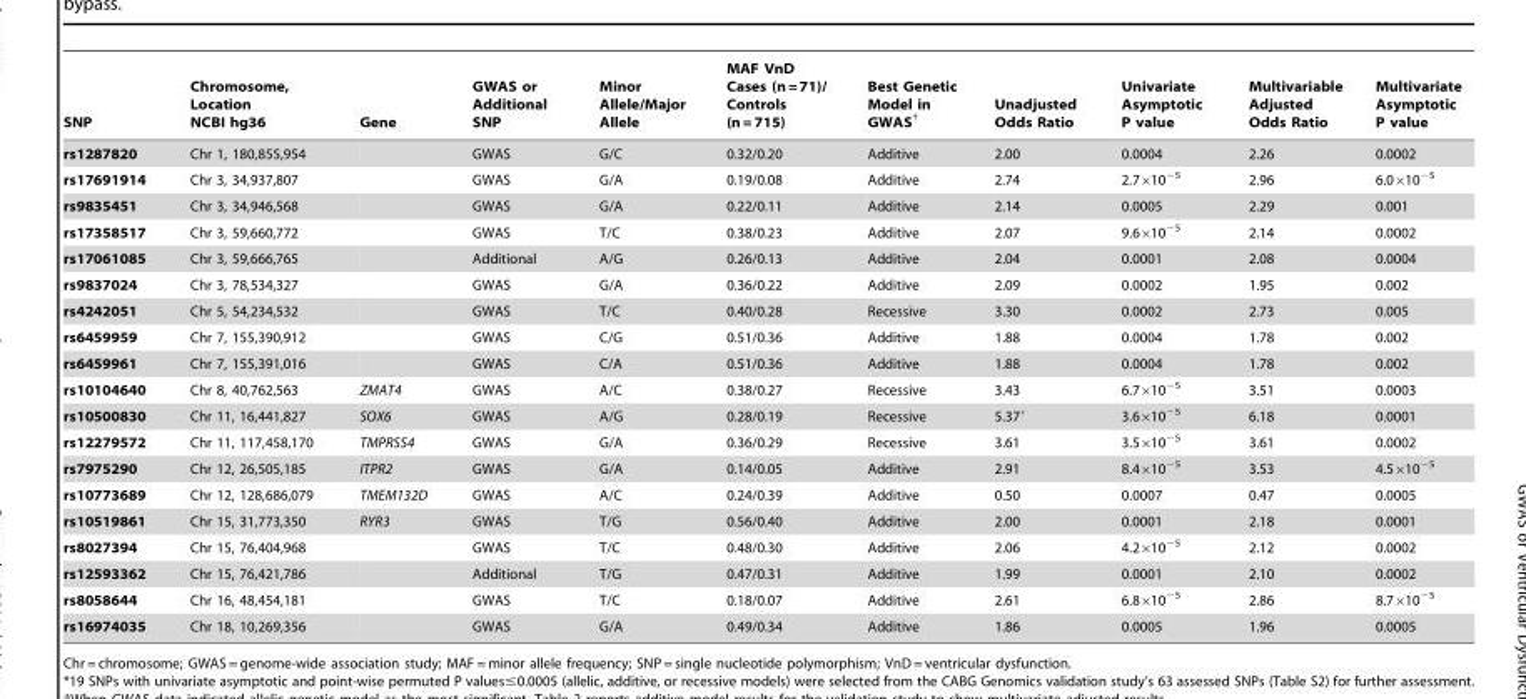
<table><thead><tr><td>SNP</td><td>Chromosome, Location NCBI hg36</td><td>Gene</td><td>GWAS or Additional SNP</td><td>Minor Allele/Major Allele</td><td>MAF VnD Cases (n = 71)/ Controls (n = 715)</td><td>Best Genetic Model in GWAS†</td><td>Unadjusted Odds Ratio</td><td>Univariate Asymptotic P value</td><td>Multivariable Adjusted Odds Ratio</td><td>Multivariate Asymptotic P value</td></tr></thead><tbody><tr><td>rs1287820</td><td>Chr 1, 180,855,954</td><td></td><td>GWAS</td><td>G/C</td><td>0.32/0.20</td><td>Additive</td><td>2.00</td><td>0.0004</td><td>2.26</td><td>0.0002</td></tr><tr><td>rs17691914</td><td>Chr 3, 34,937,807</td><td></td><td>GWAS</td><td>G/A</td><td>0.19/0.08</td><td>Additive</td><td>2.74</td><td>2.7×10<sup>−5</sup></td><td>2.96</td><td>6.0×10<sup>−5</sup></td></tr><tr><td>rs9835451</td><td>Chr 3, 34,946,568</td><td></td><td>GWAS</td><td>G/A</td><td>0.22/0.11</td><td>Additive</td><td>2.14</td><td>0.0005</td><td>2.29</td><td>0.001</td></tr><tr><td>rs17358517</td><td>Chr 3, 59,660,772</td><td></td><td>GWAS</td><td>T/C</td><td>0.38/0.23</td><td>Additive</td><td>2.07</td><td>9.6×10<sup>−5</sup></td><td>2.14</td><td>0.0002</td></tr><tr><td>rs17061085</td><td>Chr 3, 59,666,765</td><td></td><td>Additional</td><td>A/G</td><td>0.26/0.13</td><td>Additive</td><td>2.04</td><td>0.0001</td><td>2.08</td><td>0.0004</td></tr><tr><td>rs9837024</td><td>Chr 3, 78,534,327</td><td></td><td>GWAS</td><td>G/A</td><td>0.36/0.22</td><td>Additive</td><td>2.09</td><td>0.0002</td><td>1.95</td><td>0.002</td></tr><tr><td>rs4242051</td><td>Chr 5, 54,234,532</td><td></td><td>GWAS</td><td>T/C</td><td>0.40/0.28</td><td>Recessive</td><td>3.30</td><td>0.0002</td><td>2.73</td><td>0.005</td></tr><tr><td>rs6459959</td><td>Chr 7, 155,390,912</td><td></td><td>GWAS</td><td>C/G</td><td>0.51/0.36</td><td>Additive</td><td>1.88</td><td>0.0004</td><td>1.78</td><td>0.002</td></tr><tr><td>rs6459961</td><td>Chr 7, 155,391,016</td><td></td><td>GWAS</td><td>C/A</td><td>0.51/0.36</td><td>Additive</td><td>1.88</td><td>0.0004</td><td>1.78</td><td>0.002</td></tr><tr><td>rs10104640</td><td>Chr 8, 40,762,563</td><td>ZMAT4</td><td>GWAS</td><td>A/C</td><td>0.38/0.27</td><td>Recessive</td><td>3.43</td><td>6.7×10<sup>−5</sup></td><td>3.51</td><td>0.0003</td></tr><tr><td>rs10500830</td><td>Chr 11, 16,441,827</td><td>SOX6</td><td>GWAS</td><td>A/G</td><td>0.28/0.19</td><td>Recessive</td><td>5.37′</td><td>3.6×10<sup>−5</sup></td><td>6.18</td><td>0.0001</td></tr><tr><td>rs12279572</td><td>Chr 11, 117,458,170</td><td>TMPRSS4</td><td>GWAS</td><td>G/A</td><td>0.36/0.29</td><td>Recessive</td><td>3.61</td><td>3.5×10<sup>−5</sup></td><td>3.61</td><td>0.0002</td></tr><tr><td>rs7975290</td><td>Chr 12, 26,505,185</td><td>ITPR2</td><td>GWAS</td><td>G/A</td><td>0.14/0.05</td><td>Additive</td><td>2.91</td><td>8.4×10<sup>−5</sup></td><td>3.53</td><td>4.5×10<sup>−5</sup></td></tr><tr><td>rs10773689</td><td>Chr 12, 128,686,079</td><td>TMEM132D</td><td>GWAS</td><td>A/C</td><td>0.24/0.39</td><td>Additive</td><td>0.50</td><td>0.0007</td><td>0.47</td><td>0.0005</td></tr><tr><td>rs10519861</td><td>Chr 15, 31,773,350</td><td>RYR3</td><td>GWAS</td><td>T/G</td><td>0.56/0.40</td><td>Additive</td><td>2.00</td><td>0.0001</td><td>2.18</td><td>0.0001</td></tr><tr><td>rs8027394</td><td>Chr 15, 76,404,968</td><td></td><td>GWAS</td><td>T/C</td><td>0.48/0.30</td><td>Additive</td><td>2.06</td><td>4.2×10<sup>−5</sup></td><td>2.12</td><td>0.0002</td></tr><tr><td>rs12593362</td><td>Chr 15, 76,421,786</td><td></td><td>Additional</td><td>T/G</td><td>0.47/0.31</td><td>Additive</td><td>1.99</td><td>0.0001</td><td>2.10</td><td>0.0002</td></tr><tr><td>rs8058644</td><td>Chr 16, 48,454,181</td><td></td><td>GWAS</td><td>T/C</td><td>0.18/0.07</td><td>Additive</td><td>2.61</td><td>6.8×10<sup>−5</sup></td><td>2.86</td><td>8.7×10<sup>−5</sup></td></tr><tr><td>rs16974035</td><td>Chr 18, 10,269,356</td><td></td><td>GWAS</td><td>G/A</td><td>0.49/0.34</td><td>Additive</td><td>1.86</td><td>0.0005</td><td>1.96</td><td>0.0005</td></tr></tbody></table>